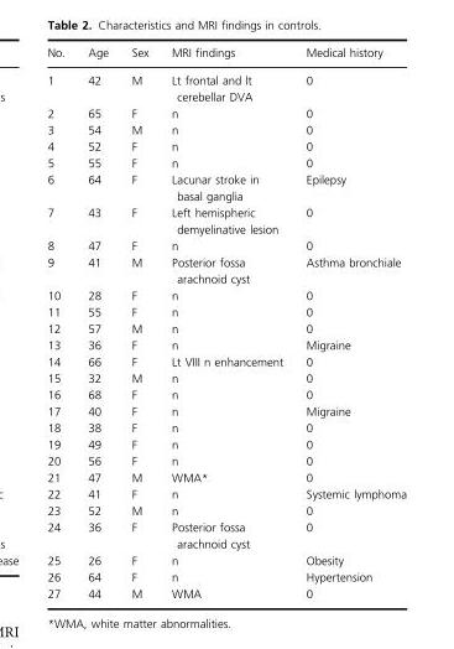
<table><thead><tr><td>No.</td><td>Age</td><td>Sex</td><td>MRI findings</td><td>Medical history</td></tr></thead><tbody><tr><td>1</td><td>42</td><td>M</td><td>Lt frontal and lt cerebellar DVA</td><td>0</td></tr><tr><td>2</td><td>65</td><td>F</td><td>n</td><td>0</td></tr><tr><td>3</td><td>54</td><td>M</td><td>n</td><td>0</td></tr><tr><td>4</td><td>52</td><td>F</td><td>n</td><td>0</td></tr><tr><td>5</td><td>55</td><td>F</td><td>n</td><td>0</td></tr><tr><td>6</td><td>64</td><td>F</td><td>Lacunar stroke in basal ganglia</td><td>Epilepsy</td></tr><tr><td>7</td><td>43</td><td>F</td><td>Left hemispheric demyelinative lesion</td><td>0</td></tr><tr><td>8</td><td>47</td><td>F</td><td>n</td><td>0</td></tr><tr><td>9</td><td>41</td><td>M</td><td>Posterior fossa arachnoid cyst</td><td>Asthma bronchiale</td></tr><tr><td>10</td><td>28</td><td>F</td><td>n</td><td>0</td></tr><tr><td>11</td><td>55</td><td>F</td><td>n</td><td>0</td></tr><tr><td>12</td><td>57</td><td>M</td><td>n</td><td>0</td></tr><tr><td>13</td><td>36</td><td>F</td><td>n</td><td>Migraine</td></tr><tr><td>14</td><td>66</td><td>F</td><td>Lt VIII n enhancement</td><td>0</td></tr><tr><td>15</td><td>32</td><td>M</td><td>n</td><td>0</td></tr><tr><td>16</td><td>68</td><td>F</td><td>n</td><td>0</td></tr><tr><td>17</td><td>40</td><td>F</td><td>n</td><td>Migraine</td></tr><tr><td>18</td><td>38</td><td>F</td><td>n</td><td>0</td></tr><tr><td>19</td><td>49</td><td>F</td><td>n</td><td>0</td></tr><tr><td>20</td><td>56</td><td>F</td><td>n</td><td>0</td></tr><tr><td>21</td><td>47</td><td>M</td><td>WMA*</td><td>0</td></tr><tr><td>22</td><td>41</td><td>F</td><td>n</td><td>Systemic lymphoma</td></tr><tr><td>23</td><td>52</td><td>M</td><td>n</td><td>0</td></tr><tr><td>24</td><td>36</td><td>F</td><td>Posterior fossa arachnoid cyst</td><td>0</td></tr><tr><td>25</td><td>26</td><td>F</td><td>n</td><td>Obesity</td></tr><tr><td>26</td><td>64</td><td>F</td><td>n</td><td>Hypertension</td></tr><tr><td>27</td><td>44</td><td>M</td><td>WMA</td><td>0</td></tr></tbody></table>